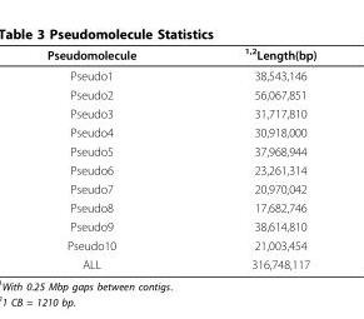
<table><thead><tr><td>Pseudomolecule</td><td><sup>1,2</sup>Length(bp)</td></tr></thead><tbody><tr><td>Pseudo1</td><td>38,543,146</td></tr><tr><td>Pseudo2</td><td>56,067,851</td></tr><tr><td>Pseudo3</td><td>31,717,810</td></tr><tr><td>Pseudo4</td><td>30,918,000</td></tr><tr><td>Pseudo5</td><td>37,968,944</td></tr><tr><td>Pseudo6</td><td>23,261,314</td></tr><tr><td>Pseudo7</td><td>20,970,042</td></tr><tr><td>Pseudo8</td><td>17,682,746</td></tr><tr><td>Pseudo9</td><td>38,614,810</td></tr><tr><td>Pseudo10</td><td>21,003,454</td></tr><tr><td>ALL</td><td>316,748,117</td></tr></tbody></table>